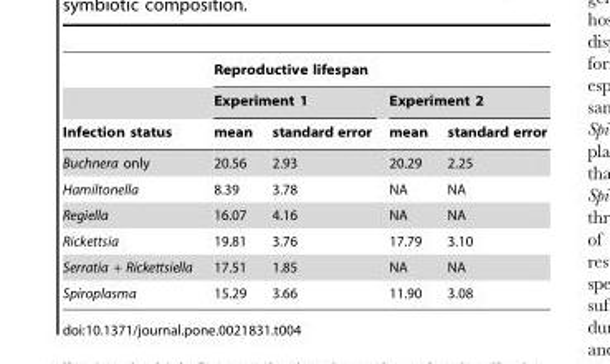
<table><thead><tr><td rowspan="3">Infection status</td><td colspan="4">Reproductive lifespan</td></tr><tr><td colspan="2">Experiment 1</td><td colspan="2">Experiment 2</td></tr><tr><td>mean</td><td>standard error</td><td>mean</td><td>standard error</td></tr></thead><tbody><tr><td>Buchnera only</td><td>20.56</td><td>2.93</td><td>20.29</td><td>2.25</td></tr><tr><td>Hamiltonella</td><td>8.39</td><td>3.78</td><td>NA</td><td>NA</td></tr><tr><td>Regiella</td><td>16.07</td><td>4.16</td><td>NA</td><td>NA</td></tr><tr><td>Rickettsia</td><td>19.81</td><td>3.76</td><td>17.79</td><td>3.10</td></tr><tr><td>Serratia + Rickettsiella</td><td>17.51</td><td>1.85</td><td>NA</td><td>NA</td></tr><tr><td>Spiroplasma</td><td>15.29</td><td>3.66</td><td>11.90</td><td>3.08</td></tr></tbody></table>